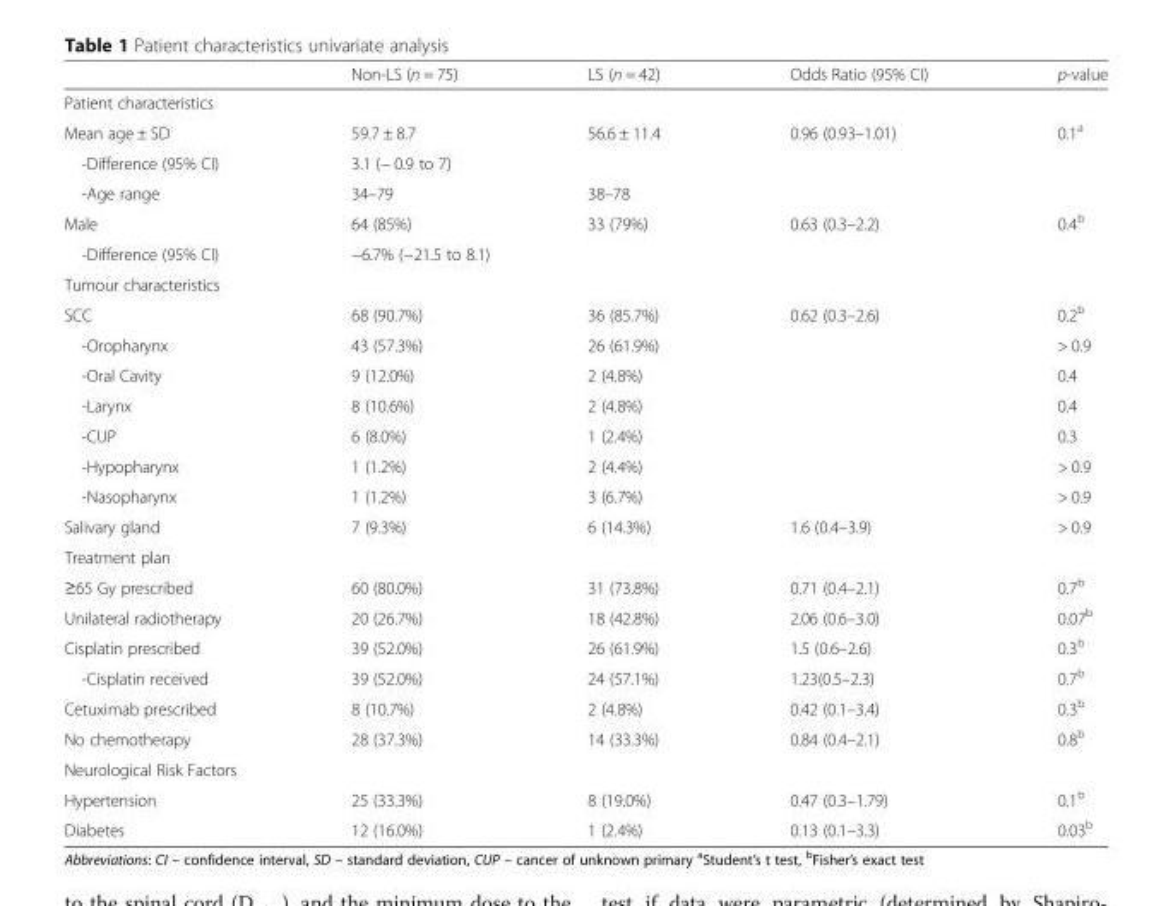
<table><thead><tr><td></td><td>Non-LS (n = 75)</td><td>LS (n = 42)</td><td>Odds Ratio (95% CI)</td><td>p-value</td></tr></thead><tbody><tr><td colspan="5">Patient characteristics</td></tr><tr><td>Mean age ± SD</td><td>59.7 ± 8.7</td><td>56.6 ± 11.4</td><td>0.96 (0.93–1.01)</td><td>0.1<sup>a</sup></td></tr><tr><td>-Difference (95% CI)</td><td colspan="2">3.1 (− 0.9 to 7)</td><td></td><td></td></tr><tr><td>-Age range</td><td>34–79</td><td>38–78</td><td></td><td></td></tr><tr><td>Male</td><td>64 (85%)</td><td>33 (79%)</td><td>0.63 (0.3–2.2)</td><td>0.4<sup>b</sup></td></tr><tr><td>-Difference (95% CI)</td><td colspan="2">−6.7% (−21.5 to 8.1)</td><td></td><td></td></tr><tr><td colspan="5">Tumour characteristics</td></tr><tr><td>SCC</td><td>68 (90.7%)</td><td>36 (85.7%)</td><td>0.62 (0.3–2.6)</td><td>0.2<sup>b</sup></td></tr><tr><td>-Oropharynx</td><td>43 (57.3%)</td><td>26 (61.9%)</td><td></td><td>&gt; 0.9</td></tr><tr><td>-Oral Cavity</td><td>9 (12.0%)</td><td>2 (4.8%)</td><td></td><td>0.4</td></tr><tr><td>-Larynx</td><td>8 (10.6%)</td><td>2 (4.8%)</td><td></td><td>0.4</td></tr><tr><td>-CUP</td><td>6 (8.0%)</td><td>1 (2.4%)</td><td></td><td>0.3</td></tr><tr><td>-Hypopharynx</td><td>1 (1.2%)</td><td>2 (4.4%)</td><td></td><td>&gt; 0.9</td></tr><tr><td>-Nasopharynx</td><td>1 (1.2%)</td><td>3 (6.7%)</td><td></td><td>&gt; 0.9</td></tr><tr><td>Salivary gland</td><td>7 (9.3%)</td><td>6 (14.3%)</td><td>1.6 (0.4–3.9)</td><td>&gt; 0.9</td></tr><tr><td colspan="5">Treatment plan</td></tr><tr><td>≥65 Gy prescribed</td><td>60 (80.0%)</td><td>31 (73.8%)</td><td>0.71 (0.4–2.1)</td><td>0.7<sup>b</sup></td></tr><tr><td>Unilateral radiotherapy</td><td>20 (26.7%)</td><td>18 (42.8%)</td><td>2.06 (0.6–3.0)</td><td>0.07<sup>b</sup></td></tr><tr><td>Cisplatin prescribed</td><td>39 (52.0%)</td><td>26 (61.9%)</td><td>1.5 (0.6–2.6)</td><td>0.3<sup>b</sup></td></tr><tr><td>-Cisplatin received</td><td>39 (52.0%)</td><td>24 (57.1%)</td><td>1.23(0.5–2.3)</td><td>0.7<sup>b</sup></td></tr><tr><td>Cetuximab prescribed</td><td>8 (10.7%)</td><td>2 (4.8%)</td><td>0.42 (0.1–3.4)</td><td>0.3<sup>b</sup></td></tr><tr><td>No chemotherapy</td><td>28 (37.3%)</td><td>14 (33.3%)</td><td>0.84 (0.4–2.1)</td><td>0.8<sup>b</sup></td></tr><tr><td colspan="5">Neurological Risk Factors</td></tr><tr><td>Hypertension</td><td>25 (33.3%)</td><td>8 (19.0%)</td><td>0.47 (0.3–1.79)</td><td>0.1<sup>b</sup></td></tr><tr><td>Diabetes</td><td>12 (16.0%)</td><td>1 (2.4%)</td><td>0.13 (0.1–3.3)</td><td>0.03<sup>b</sup></td></tr></tbody></table>